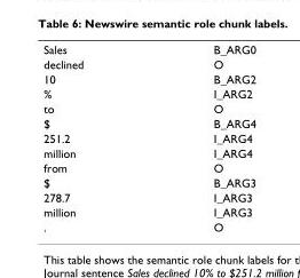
<table><tbody><tr><td>Sales</td><td>B_ARG0</td></tr><tr><td>declined</td><td>O</td></tr><tr><td>10</td><td>B_ARG2</td></tr><tr><td>%</td><td>I_ARG2</td></tr><tr><td>to</td><td>O</td></tr><tr><td>$</td><td>B_ARG4</td></tr><tr><td>251.2</td><td>I_ARG4</td></tr><tr><td>million</td><td>I_ARG4</td></tr><tr><td>from</td><td>O</td></tr><tr><td>$</td><td>B_ARG3</td></tr><tr><td>278.7</td><td>I_ARG3</td></tr><tr><td>million</td><td>I_ARG3</td></tr><tr><td>.</td><td>O</td></tr></tbody></table>